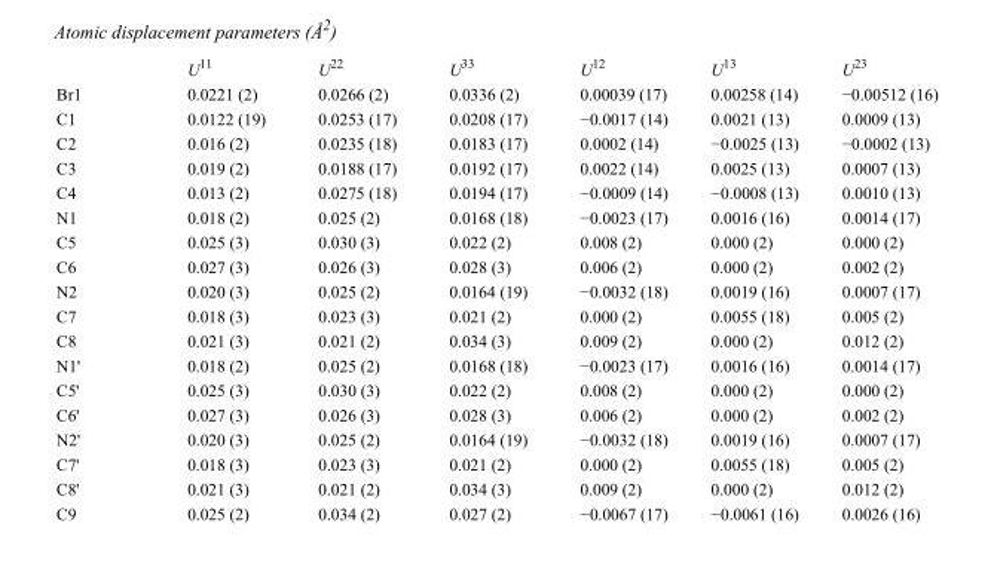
<table><thead><tr><td></td><td>U<sup>11</sup></td><td>U<sup>22</sup></td><td>U<sup>33</sup></td><td>U<sup>12</sup></td><td>U<sup>13</sup></td><td>U<sup>23</sup></td></tr></thead><tbody><tr><td>Br1</td><td>0.0221 (2)</td><td>0.0266 (2)</td><td>0.0336 (2)</td><td>0.00039 (17)</td><td>0.00258 (14)</td><td>−0.00512 (16)</td></tr><tr><td>C1</td><td>0.0122 (19)</td><td>0.0253 (17)</td><td>0.0208 (17)</td><td>−0.0017 (14)</td><td>0.0021 (13)</td><td>0.0009 (13)</td></tr><tr><td>C2</td><td>0.016 (2)</td><td>0.0235 (18)</td><td>0.0183 (17)</td><td>0.0002 (14)</td><td>−0.0025 (13)</td><td>−0.0002 (13)</td></tr><tr><td>C3</td><td>0.019 (2)</td><td>0.0188 (17)</td><td>0.0192 (17)</td><td>0.0022 (14)</td><td>0.0025 (13)</td><td>0.0007 (13)</td></tr><tr><td>C4</td><td>0.013 (2)</td><td>0.0275 (18)</td><td>0.0194 (17)</td><td>−0.0009 (14)</td><td>−0.0008 (13)</td><td>0.0010 (13)</td></tr><tr><td>N1</td><td>0.018 (2)</td><td>0.025 (2)</td><td>0.0168 (18)</td><td>−0.0023 (17)</td><td>0.0016 (16)</td><td>0.0014 (17)</td></tr><tr><td>C5</td><td>0.025 (3)</td><td>0.030 (3)</td><td>0.022 (2)</td><td>0.008 (2)</td><td>0.000 (2)</td><td>0.000 (2)</td></tr><tr><td>C6</td><td>0.027 (3)</td><td>0.026 (3)</td><td>0.028 (3)</td><td>0.006 (2)</td><td>0.000 (2)</td><td>0.002 (2)</td></tr><tr><td>N2</td><td>0.020 (3)</td><td>0.025 (2)</td><td>0.0164 (19)</td><td>−0.0032 (18)</td><td>0.0019 (16)</td><td>0.0007 (17)</td></tr><tr><td>C7</td><td>0.018 (3)</td><td>0.023 (3)</td><td>0.021 (2)</td><td>0.000 (2)</td><td>0.0055 (18)</td><td>0.005 (2)</td></tr><tr><td>C8</td><td>0.021 (3)</td><td>0.021 (2)</td><td>0.034 (3)</td><td>0.009 (2)</td><td>0.000 (2)</td><td>0.012 (2)</td></tr><tr><td>N1&#x27;</td><td>0.018 (2)</td><td>0.025 (2)</td><td>0.0168 (18)</td><td>−0.0023 (17)</td><td>0.0016 (16)</td><td>0.0014 (17)</td></tr><tr><td>C5&#x27;</td><td>0.025 (3)</td><td>0.030 (3)</td><td>0.022 (2)</td><td>0.008 (2)</td><td>0.000 (2)</td><td>0.000 (2)</td></tr><tr><td>C6&#x27;</td><td>0.027 (3)</td><td>0.026 (3)</td><td>0.028 (3)</td><td>0.006 (2)</td><td>0.000 (2)</td><td>0.002 (2)</td></tr><tr><td>N2&#x27;</td><td>0.020 (3)</td><td>0.025 (2)</td><td>0.0164 (19)</td><td>−0.0032 (18)</td><td>0.0019 (16)</td><td>0.0007 (17)</td></tr><tr><td>C7&#x27;</td><td>0.018 (3)</td><td>0.023 (3)</td><td>0.021 (2)</td><td>0.000 (2)</td><td>0.0055 (18)</td><td>0.005 (2)</td></tr><tr><td>C8&#x27;</td><td>0.021 (3)</td><td>0.021 (2)</td><td>0.034 (3)</td><td>0.009 (2)</td><td>0.000 (2)</td><td>0.012 (2)</td></tr><tr><td>C9</td><td>0.025 (2)</td><td>0.034 (2)</td><td>0.027 (2)</td><td>−0.0067 (17)</td><td>−0.0061 (16)</td><td>0.0026 (16)</td></tr></tbody></table>